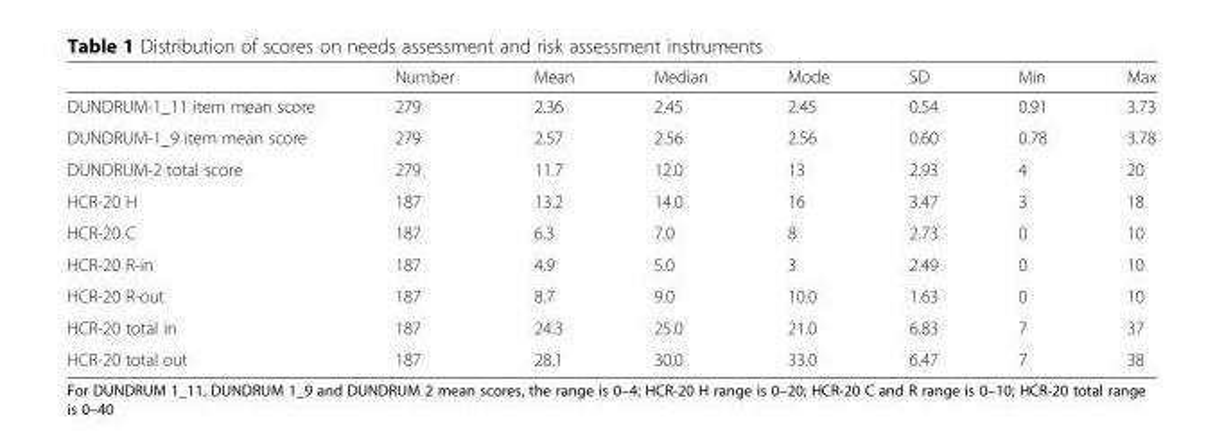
<table><thead><tr><td></td><td>Number</td><td>Mean</td><td>Median</td><td>Mode</td><td>SD</td><td>Min</td><td>Max</td></tr></thead><tbody><tr><td>DUNDRUM-1_11 item mean score</td><td>279</td><td>2.36</td><td>2.45</td><td>2.45</td><td>0.54</td><td>0.91</td><td>3.73</td></tr><tr><td>DUNDRUM-1_9 item mean score</td><td>279</td><td>2.57</td><td>2.56</td><td>2.56</td><td>0.60</td><td>0.78</td><td>3.78</td></tr><tr><td>DUNDRUM-2 total score</td><td>279</td><td>11.7</td><td>12.0</td><td>13</td><td>2.93</td><td>4</td><td>20</td></tr><tr><td>HCR-20 H</td><td>187</td><td>13.2</td><td>14.0</td><td>16</td><td>3.47</td><td>3</td><td>18</td></tr><tr><td>HCR-20 C</td><td>187</td><td>6.3</td><td>7.0</td><td>8</td><td>2.73</td><td>0</td><td>10</td></tr><tr><td>HCR-20 R-in</td><td>187</td><td>4.9</td><td>5.0</td><td>3</td><td>2.49</td><td>0</td><td>10</td></tr><tr><td>HCR-20 R-out</td><td>187</td><td>8.7</td><td>9.0</td><td>10.0</td><td>1.63</td><td>0</td><td>10</td></tr><tr><td>HCR-20 total in</td><td>187</td><td>24.3</td><td>25.0</td><td>21.0</td><td>6.83</td><td>7</td><td>37</td></tr><tr><td>HCR-20 total out</td><td>187</td><td>28.1</td><td>30.0</td><td>33.0</td><td>6.47</td><td>7</td><td>38</td></tr></tbody></table>